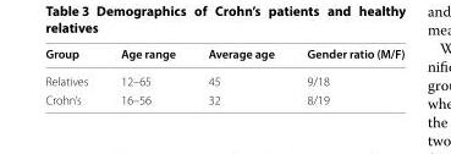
<table><thead><tr><td>Group</td><td>Age range</td><td>Average age</td><td>Gender ratio (M/F)</td></tr></thead><tbody><tr><td>Relatives</td><td>12–65</td><td>45</td><td>9/18</td></tr><tr><td>Crohn’s</td><td>16–56</td><td>32</td><td>8/19</td></tr></tbody></table>